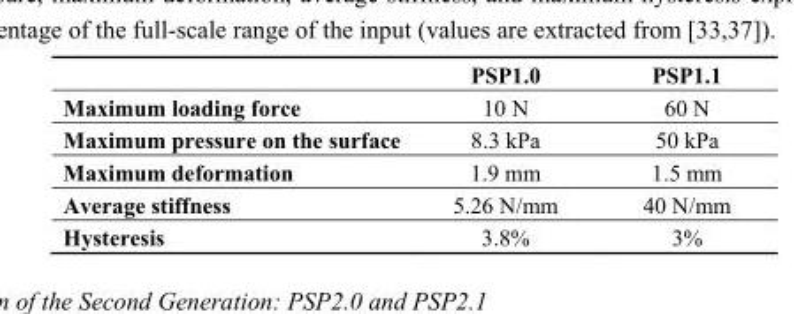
<table><thead><tr><td></td><td>PSP1.0</td><td>PSP1.1</td></tr></thead><tbody><tr><td>Maximum loading force</td><td>10 N</td><td>60 N</td></tr><tr><td>Maximum pressure on the surface</td><td>8.3 kPa</td><td>50 kPa</td></tr><tr><td>Maximum deformation</td><td>1.9 mm</td><td>1.5 mm</td></tr><tr><td>Average stiffness</td><td>5.26 N/mm</td><td>40 N/mm</td></tr><tr><td>Hysteresis</td><td>3.8%</td><td>3%</td></tr></tbody></table>